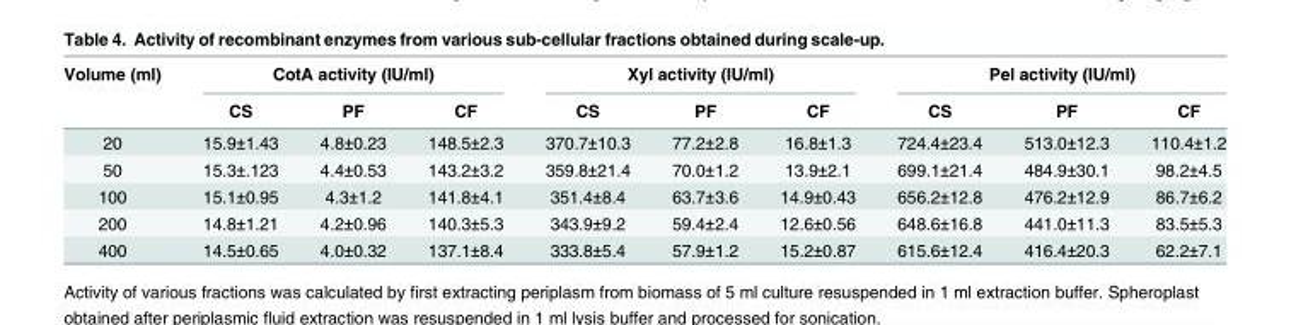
<table><thead><tr><td rowspan="2">Volume (ml)</td><td colspan="3">CotA activity (IU/ml)</td><td colspan="3">Xyl activity (IU/ml)</td><td colspan="3">Pel activity (IU/ml)</td></tr><tr><td>CS</td><td>PF</td><td>CF</td><td>CS</td><td>PF</td><td>CF</td><td>CS</td><td>PF</td><td>CF</td></tr></thead><tbody><tr><td>20</td><td>15.9±1.43</td><td>4.8±0.23</td><td>148.5±2.3</td><td>370.7±10.3</td><td>77.2±2.8</td><td>16.8±1.3</td><td>724.4±23.4</td><td>513.0±12.3</td><td>110.4±1.2</td></tr><tr><td>50</td><td>15.3±.123</td><td>4.4±0.53</td><td>143.2±3.2</td><td>359.8±21.4</td><td>70.0±1.2</td><td>13.9±2.1</td><td>699.1±21.4</td><td>484.9±30.1</td><td>98.2±4.5</td></tr><tr><td>100</td><td>15.1±0.95</td><td>4.3±1.2</td><td>141.8±4.1</td><td>351.4±8.4</td><td>63.7±3.6</td><td>14.9±0.43</td><td>656.2±12.8</td><td>476.2±12.9</td><td>86.7±6.2</td></tr><tr><td>200</td><td>14.8±1.21</td><td>4.2±0.96</td><td>140.3±5.3</td><td>343.9±9.2</td><td>59.4±2.4</td><td>12.6±0.56</td><td>648.6±16.8</td><td>441.0±11.3</td><td>83.5±5.3</td></tr><tr><td>400</td><td>14.5±0.65</td><td>4.0±0.32</td><td>137.1±8.4</td><td>333.8±5.4</td><td>57.9±1.2</td><td>15.2±0.87</td><td>615.6±12.4</td><td>416.4±20.3</td><td>62.2±7.1</td></tr></tbody></table>